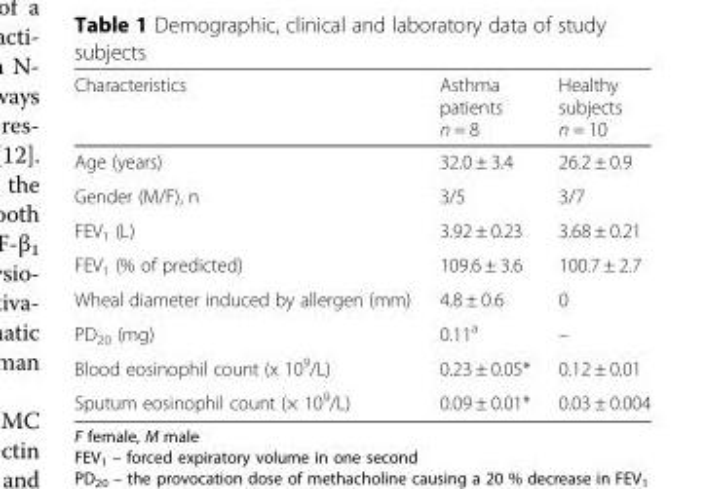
<table><thead><tr><td>Characteristics</td><td>Asthma patients n = 8</td><td>Healthy subjects n = 10</td></tr></thead><tbody><tr><td>Age (years)</td><td>32.0 ± 3.4</td><td>26.2 ± 0.9</td></tr><tr><td>Gender (M/F), n</td><td>3/5</td><td>3/7</td></tr><tr><td>FEV<sub>1</sub> (L)</td><td>3.92 ± 0.23</td><td>3.68 ± 0.21</td></tr><tr><td>FEV<sub>1</sub> (% of predicted)</td><td>109.6 ± 3.6</td><td>100.7 ± 2.7</td></tr><tr><td>Wheal diameter induced by allergen (mm)</td><td>4.8 ± 0.6</td><td>0</td></tr><tr><td>PD<sub>20</sub> (mg)</td><td>0.11<sup>a</sup></td><td>–</td></tr><tr><td>Blood eosinophil count (x 10<sup>9</sup>/L)</td><td>0.23 ± 0.05*</td><td>0.12 ± 0.01</td></tr><tr><td>Sputum eosinophil count (× 10<sup>9</sup>/L)</td><td>0.09 ± 0.01*</td><td>0.03 ± 0.004</td></tr></tbody></table>